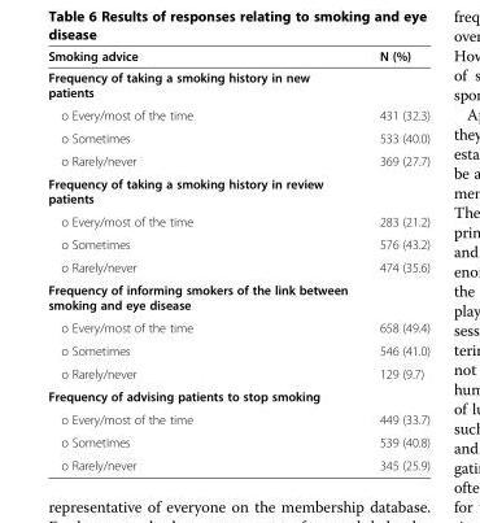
<table><thead><tr><td>Smoking advice</td><td>N (%)</td></tr></thead><tbody><tr><td colspan="2">Frequency of taking a smoking history in new patients</td></tr><tr><td>o Every/most of the time</td><td>431 (32.3)</td></tr><tr><td>o Sometimes</td><td>533 (40.0)</td></tr><tr><td>o Rarely/never</td><td>369 (27.7)</td></tr><tr><td colspan="2">Frequency of taking a smoking history in review patients</td></tr><tr><td>o Every/most of the time</td><td>283 (21.2)</td></tr><tr><td>o Sometimes</td><td>576 (43.2)</td></tr><tr><td>o Rarely/never</td><td>474 (35.6)</td></tr><tr><td colspan="2">Frequency of informing smokers of the link between smoking and eye disease</td></tr><tr><td>o Every/most of the time</td><td>658 (49.4)</td></tr><tr><td>o Sometimes</td><td>546 (41.0)</td></tr><tr><td>o Rarely/never</td><td>129 (9.7)</td></tr><tr><td colspan="2">Frequency of advising patients to stop smoking</td></tr><tr><td>o Every/most of the time</td><td>449 (33.7)</td></tr><tr><td>o Sometimes</td><td>539 (40.8)</td></tr><tr><td>o Rarely/never</td><td>345 (25.9)</td></tr></tbody></table>